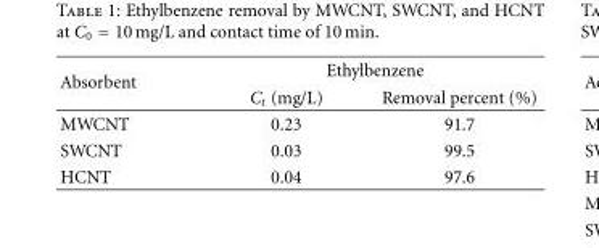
<table><thead><tr><td rowspan="2">Absorbent</td><td colspan="2">Ethylbenzene</td></tr><tr><td>C<sub>t</sub> (mg/L)</td><td>Removal percent (%)</td></tr></thead><tbody><tr><td>MWCNT</td><td>0.23</td><td>91.7</td></tr><tr><td>SWCNT</td><td>0.03</td><td>99.5</td></tr><tr><td>HCNT</td><td>0.04</td><td>97.6</td></tr></tbody></table>